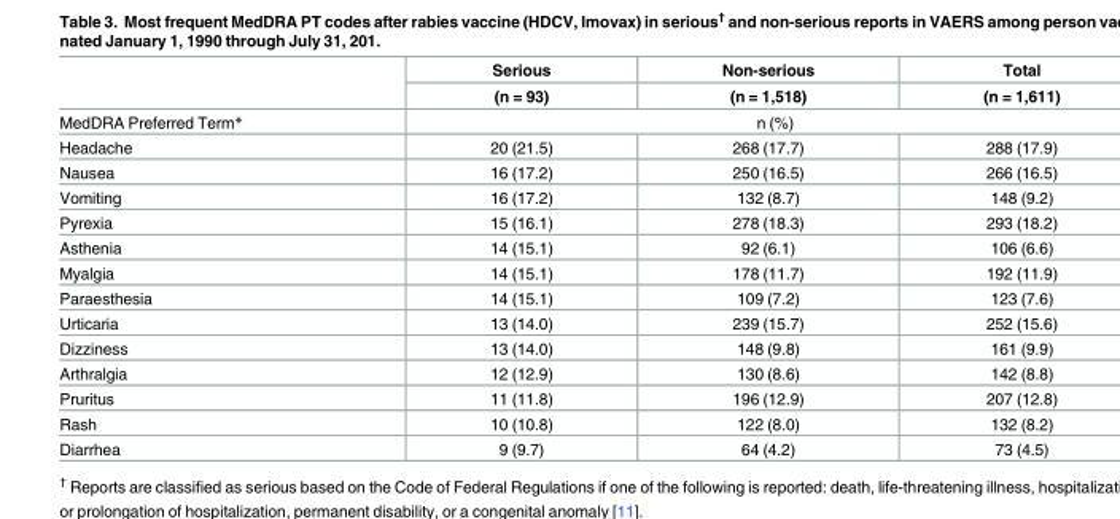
<table><thead><tr><td rowspan="2"></td><td rowspan="2">Serious (n = 93)</td><td rowspan="2">Non-serious (n = 1,518)</td><td rowspan="2">Total (n = 1,611)</td></tr><tr></tr></thead><tbody><tr><td>MedDRA Preferred Term*</td><td colspan="3">n (%)</td></tr><tr><td>Headache</td><td>20 (21.5)</td><td>268 (17.7)</td><td>288 (17.9)</td></tr><tr><td>Nausea</td><td>16 (17.2)</td><td>250 (16.5)</td><td>266 (16.5)</td></tr><tr><td>Vomiting</td><td>16 (17.2)</td><td>132 (8.7)</td><td>148 (9.2)</td></tr><tr><td>Pyrexia</td><td>15 (16.1)</td><td>278 (18.3)</td><td>293 (18.2)</td></tr><tr><td>Asthenia</td><td>14 (15.1)</td><td>92 (6.1)</td><td>106 (6.6)</td></tr><tr><td>Myalgia</td><td>14 (15.1)</td><td>178 (11.7)</td><td>192 (11.9)</td></tr><tr><td>Paraesthesia</td><td>14 (15.1)</td><td>109 (7.2)</td><td>123 (7.6)</td></tr><tr><td>Urticaria</td><td>13 (14.0)</td><td>239 (15.7)</td><td>252 (15.6)</td></tr><tr><td>Dizziness</td><td>13 (14.0)</td><td>148 (9.8)</td><td>161 (9.9)</td></tr><tr><td>Arthralgia</td><td>12 (12.9)</td><td>130 (8.6)</td><td>142 (8.8)</td></tr><tr><td>Pruritus</td><td>11 (11.8)</td><td>196 (12.9)</td><td>207 (12.8)</td></tr><tr><td>Rash</td><td>10 (10.8)</td><td>122 (8.0)</td><td>132 (8.2)</td></tr><tr><td>Diarrhea</td><td>9 (9.7)</td><td>64 (4.2)</td><td>73 (4.5)</td></tr></tbody></table>